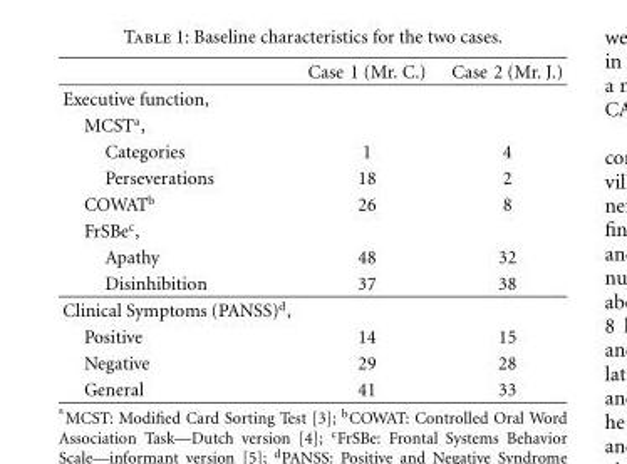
<table><thead><tr><td></td><td>Case 1 (Mr. C.)</td><td>Case 2 (Mr. J.)</td></tr></thead><tbody><tr><td colspan="3">Executive function,</td></tr><tr><td colspan="3">MCST<sup>a</sup>,</td></tr><tr><td>Categories</td><td>1</td><td>4</td></tr><tr><td>Perseverations</td><td>18</td><td>2</td></tr><tr><td>COWAT<sup>b</sup></td><td>26</td><td>8</td></tr><tr><td colspan="3">FrSBe<sup>c</sup>,</td></tr><tr><td>Apathy</td><td>48</td><td>32</td></tr><tr><td>Disinhibition</td><td>37</td><td>38</td></tr><tr><td colspan="3">Clinical Symptoms (PANSS)<sup>d</sup>,</td></tr><tr><td>Positive</td><td>14</td><td>15</td></tr><tr><td>Negative</td><td>29</td><td>28</td></tr><tr><td>General</td><td>41</td><td>33</td></tr></tbody></table>